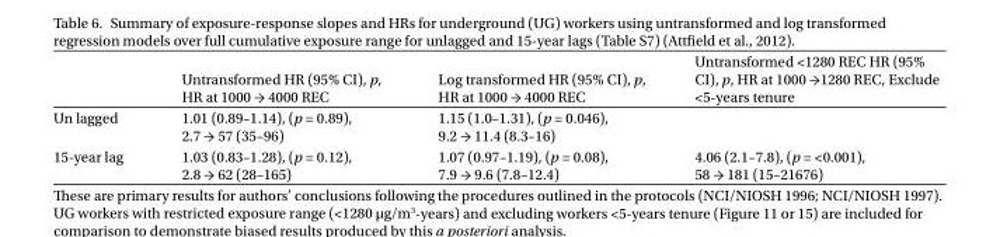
<table><thead><tr><td></td><td>Untransformed HR (95% CI), p, HR at 1000 → 4000 REC</td><td>Log transformed HR (95% CI), p, HR at 1000 → 4000 REC</td><td>Untransformed &lt;1280 REC HR (95% CI), p, HR at 1000 →1280 REC, Exclude &lt;5-years tenure</td></tr></thead><tbody><tr><td>Un lagged</td><td>1.01 (0.89–1.14), (p = 0.89), 2.7 → 57 (35–96)</td><td>1.15 (1.0–1.31), (p = 0.046), 9.2 → 11.4 (8.3–16)</td><td></td></tr><tr><td>15-year lag</td><td>1.03 (0.83–1.28), (p = 0.12), 2.8 → 62 (28–165)</td><td>1.07 (0.97–1.19), (p = 0.08), 7.9 → 9.6 (7.8–12.4)</td><td>4.06 (2.1–7.8), (p = &lt;0.001), 58 → 181 (15–21676)</td></tr></tbody></table>